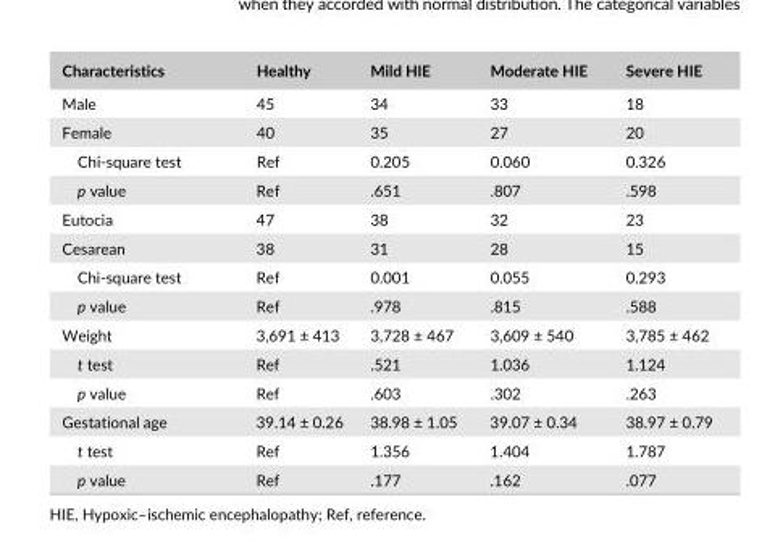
<table><thead><tr><td>Characteristics</td><td>Healthy</td><td>Mild HIE</td><td>Moderate HIE</td><td>Severe HIE</td></tr></thead><tbody><tr><td>Male</td><td>45</td><td>34</td><td>33</td><td>18</td></tr><tr><td>Female</td><td>40</td><td>35</td><td>27</td><td>20</td></tr><tr><td>Chi- square test</td><td>Ref</td><td>0.205</td><td>0.060</td><td>0.326</td></tr><tr><td>p value</td><td>Ref</td><td>.651</td><td>.807</td><td>.598</td></tr><tr><td>Eutocia</td><td>47</td><td>38</td><td>32</td><td>23</td></tr><tr><td>Cesarean</td><td>38</td><td>31</td><td>28</td><td>15</td></tr><tr><td>Chi- square test</td><td>Ref</td><td>0.001</td><td>0.055</td><td>0.293</td></tr><tr><td>p value</td><td>Ref</td><td>.978</td><td>.815</td><td>.588</td></tr><tr><td>Weight</td><td>3,691 ± 413</td><td>3,728 ± 467</td><td>3,609 ± 540</td><td>3,785 ± 462</td></tr><tr><td>t test</td><td>Ref</td><td>.521</td><td>1.036</td><td>1.124</td></tr><tr><td>p value</td><td>Ref</td><td>.603</td><td>.302</td><td>.263</td></tr><tr><td>Gestational age</td><td>39.14 ± 0.26</td><td>38.98 ± 1.05</td><td>39.07 ± 0.34</td><td>38.97 ± 0.79</td></tr><tr><td>t test</td><td>Ref</td><td>1.356</td><td>1.404</td><td>1.787</td></tr><tr><td>p value</td><td>Ref</td><td>.177</td><td>.162</td><td>.077</td></tr></tbody></table>